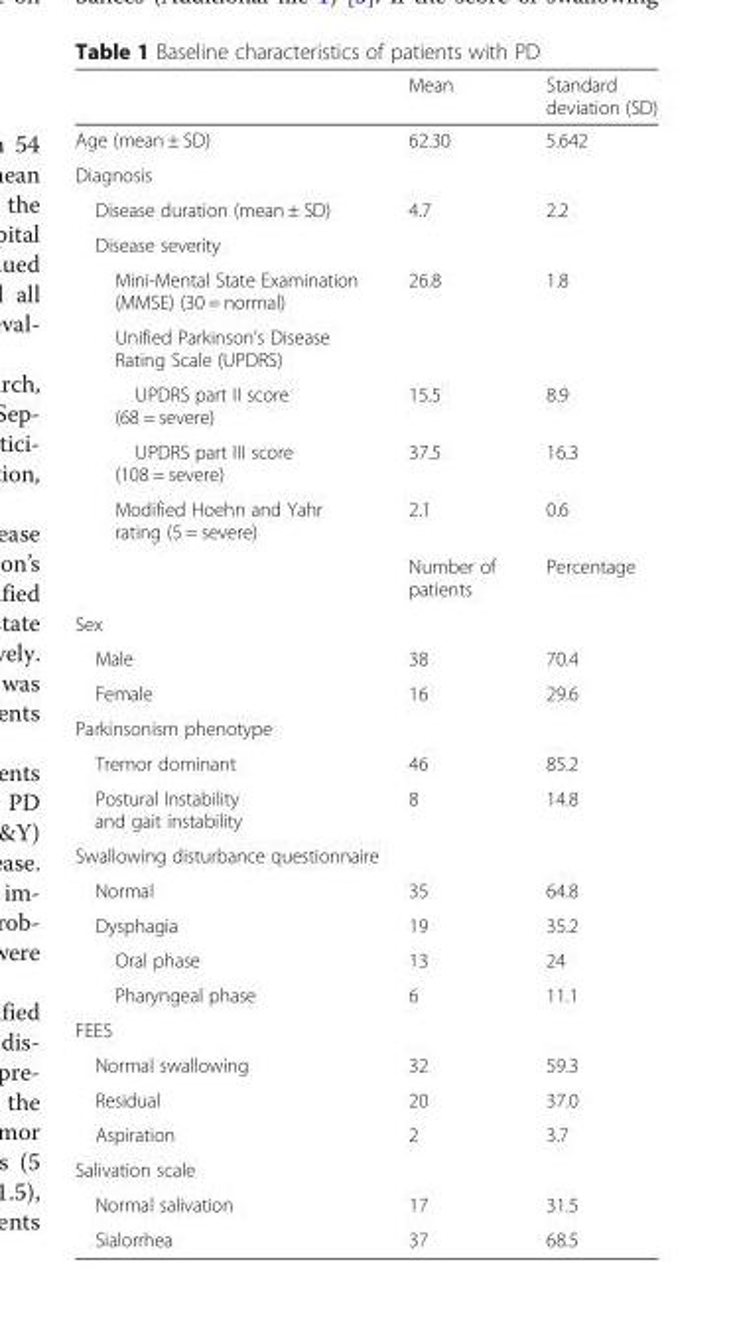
<table><thead><tr><td></td><td>Mean</td><td>Standard deviation (SD)</td></tr></thead><tbody><tr><td>Age (mean ± SD)</td><td>62.30</td><td>5.642</td></tr><tr><td colspan="3">Diagnosis</td></tr><tr><td>Disease duration (mean ± SD)</td><td>4.7</td><td>2.2</td></tr><tr><td colspan="3">Disease severity</td></tr><tr><td>Mini-Mental State Examination (MMSE) (30 = normal)</td><td>26.8</td><td>1.8</td></tr><tr><td colspan="3">Unified Parkinson’s Disease Rating Scale (UPDRS)</td></tr><tr><td>UPDRS part II score (68 = severe)</td><td>15.5</td><td>8.9</td></tr><tr><td>UPDRS part III score (108 = severe)</td><td>37.5</td><td>16.3</td></tr><tr><td rowspan="2">Modified Hoehn and Yahr rating (5 = severe)</td><td>2.1</td><td>0.6</td></tr><tr><td>Number of patients</td><td>Percentage</td></tr><tr><td colspan="3">Sex</td></tr><tr><td>Male</td><td>38</td><td>70.4</td></tr><tr><td>Female</td><td>16</td><td>29.6</td></tr><tr><td colspan="3">Parkinsonism phenotype</td></tr><tr><td>Tremor dominant</td><td>46</td><td>85.2</td></tr><tr><td>Postural Instability and gait instability</td><td>8</td><td>14.8</td></tr><tr><td colspan="3">Swallowing disturbance questionnaire</td></tr><tr><td>Normal</td><td>35</td><td>64.8</td></tr><tr><td>Dysphagia</td><td>19</td><td>35.2</td></tr><tr><td>Oral phase</td><td>13</td><td>24</td></tr><tr><td>Pharyngeal phase</td><td>6</td><td>11.1</td></tr><tr><td colspan="3">FEES</td></tr><tr><td>Normal swallowing</td><td>32</td><td>59.3</td></tr><tr><td>Residual</td><td>20</td><td>37.0</td></tr><tr><td>Aspiration</td><td>2</td><td>3.7</td></tr><tr><td colspan="3">Salivation scale</td></tr><tr><td>Normal salivation</td><td>17</td><td>31.5</td></tr><tr><td>Sialorrhea</td><td>37</td><td>68.5</td></tr></tbody></table>